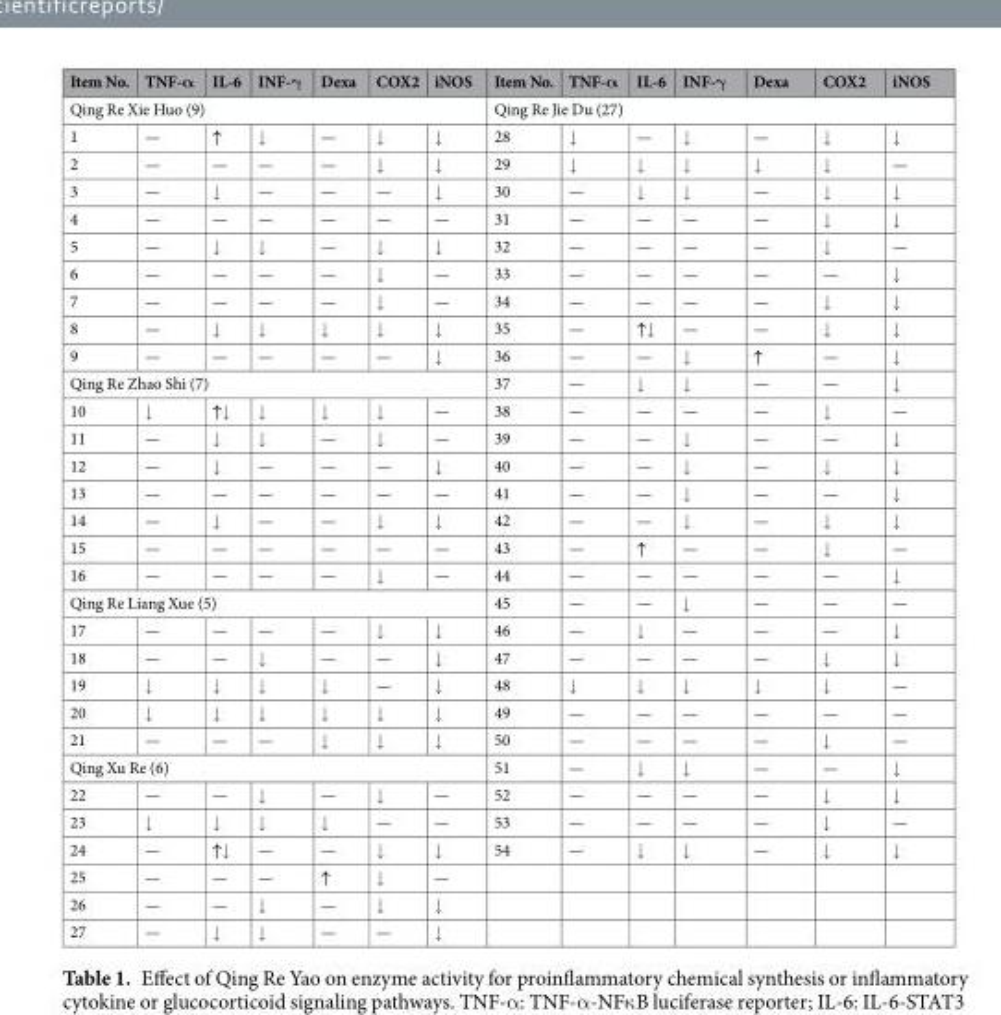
<table><thead><tr><td>Item No.</td><td>TNF-α</td><td>IL-6</td><td>INF-γ</td><td>Dexa</td><td>COX2</td><td>iNOS</td><td>Item No.</td><td>TNF-α</td><td>IL-6</td><td>INF-γ</td><td>Dexa</td><td>COX2</td><td>iNOS</td></tr></thead><tbody><tr><td colspan="7">Qing Re Xie Huo (9)</td><td colspan="7">Qing Re Jie Du (27)</td></tr><tr><td>1</td><td>—</td><td>↑</td><td>↓</td><td>—</td><td>↓</td><td>↓</td><td>28</td><td>↓</td><td>—</td><td>↓</td><td>—</td><td>↓</td><td>↓</td></tr><tr><td>2</td><td>—</td><td>—</td><td>—</td><td>—</td><td>↓</td><td>↓</td><td>29</td><td>↓</td><td>↓</td><td>↓</td><td>↓</td><td>↓</td><td>—</td></tr><tr><td>3</td><td>—</td><td>↓</td><td>—</td><td>—</td><td>—</td><td>↓</td><td>30</td><td>—</td><td>↓</td><td>↓</td><td>—</td><td>↓</td><td>↓</td></tr><tr><td>4</td><td>—</td><td>—</td><td>—</td><td>—</td><td>—</td><td>—</td><td>31</td><td>—</td><td>—</td><td>—</td><td>—</td><td>↓</td><td>↓</td></tr><tr><td>5</td><td>—</td><td>↓</td><td>↓</td><td>—</td><td>↓</td><td>↓</td><td>32</td><td>—</td><td>—</td><td>—</td><td>—</td><td>↓</td><td>—</td></tr><tr><td>6</td><td>—</td><td>—</td><td>—</td><td>—</td><td>↓</td><td>—</td><td>33</td><td>—</td><td>—</td><td>—</td><td>—</td><td>—</td><td>↓</td></tr><tr><td>7</td><td>—</td><td>—</td><td>—</td><td>—</td><td>↓</td><td>—</td><td>34</td><td>—</td><td>—</td><td>—</td><td>—</td><td>↓</td><td>↓</td></tr><tr><td>8</td><td>—</td><td>↓</td><td>↓</td><td>↓</td><td>↓</td><td>↓</td><td>35</td><td>—</td><td>↑↓</td><td>—</td><td>—</td><td>↓</td><td>↓</td></tr><tr><td>9</td><td>—</td><td>—</td><td>—</td><td>—</td><td>—</td><td>↓</td><td>36</td><td>—</td><td>—</td><td>↓</td><td>↑</td><td>—</td><td>↓</td></tr><tr><td colspan="7">Qing Re Zhao Shi (7)</td><td>37</td><td>—</td><td>↓</td><td>↓</td><td>—</td><td>—</td><td>↓</td></tr><tr><td>10</td><td>↓</td><td>↑↓</td><td>↓</td><td>↓</td><td>↓</td><td>—</td><td>38</td><td>—</td><td>—</td><td>—</td><td>—</td><td>↓</td><td>—</td></tr><tr><td>11</td><td>—</td><td>↓</td><td>↓</td><td>—</td><td>↓</td><td>—</td><td>39</td><td>—</td><td>—</td><td>↓</td><td>—</td><td>—</td><td>↓</td></tr><tr><td>12</td><td>—</td><td>↓</td><td>—</td><td>—</td><td>—</td><td>↓</td><td>40</td><td>—</td><td>—</td><td>↓</td><td>—</td><td>↓</td><td>↓</td></tr><tr><td>13</td><td>—</td><td>—</td><td>—</td><td>—</td><td>—</td><td>—</td><td>41</td><td>—</td><td>—</td><td>↓</td><td>—</td><td>—</td><td>↓</td></tr><tr><td>14</td><td>—</td><td>↓</td><td>—</td><td>—</td><td>↓</td><td>↓</td><td>42</td><td>—</td><td>—</td><td>↓</td><td>—</td><td>↓</td><td>↓</td></tr><tr><td>15</td><td>—</td><td>—</td><td>—</td><td>—</td><td>—</td><td>—</td><td>43</td><td>—</td><td>↑</td><td>—</td><td>—</td><td>↓</td><td>—</td></tr><tr><td>16</td><td>—</td><td>—</td><td>—</td><td>—</td><td>↓</td><td>—</td><td>44</td><td>—</td><td>—</td><td>—</td><td>—</td><td>—</td><td>↓</td></tr><tr><td colspan="7">Qing Re Liang Xue (5)</td><td>45</td><td>—</td><td>—</td><td>↓</td><td>—</td><td>—</td><td>—</td></tr><tr><td>17</td><td>—</td><td>—</td><td>—</td><td>—</td><td>↓</td><td>↓</td><td>46</td><td>—</td><td>↓</td><td>—</td><td>—</td><td>—</td><td>↓</td></tr><tr><td>18</td><td>—</td><td>—</td><td>↓</td><td>—</td><td>—</td><td>↓</td><td>47</td><td>—</td><td>—</td><td>—</td><td>—</td><td>↓</td><td>↓</td></tr><tr><td>19</td><td>↓</td><td>↓</td><td>↓</td><td>↓</td><td>—</td><td>↓</td><td>48</td><td>↓</td><td>↓</td><td>↓</td><td>↓</td><td>↓</td><td>—</td></tr><tr><td>20</td><td>↓</td><td>↓</td><td>↓</td><td>↓</td><td>↓</td><td>↓</td><td>49</td><td>—</td><td>—</td><td>—</td><td>—</td><td>—</td><td>—</td></tr><tr><td>21</td><td>—</td><td>—</td><td>—</td><td>↓</td><td>↓</td><td>↓</td><td>50</td><td>—</td><td>—</td><td>—</td><td>—</td><td>↓</td><td>—</td></tr><tr><td colspan="7">Qing Xu Re (6)</td><td>51</td><td>—</td><td>↓</td><td>↓</td><td>—</td><td>—</td><td>↓</td></tr><tr><td>22</td><td>—</td><td>—</td><td>↓</td><td>—</td><td>↓</td><td>—</td><td>52</td><td>—</td><td>—</td><td>—</td><td>—</td><td>↓</td><td>↓</td></tr><tr><td>23</td><td>↓</td><td>↓</td><td>↓</td><td>↓</td><td>—</td><td>—</td><td>53</td><td>—</td><td>—</td><td>—</td><td>—</td><td>↓</td><td>—</td></tr><tr><td>24</td><td>—</td><td>↑↓</td><td>—</td><td>—</td><td>↓</td><td>↓</td><td>54</td><td>—</td><td>↓</td><td>↓</td><td>—</td><td>↓</td><td>↓</td></tr><tr><td>25</td><td>—</td><td>—</td><td>—</td><td>↑</td><td>↓</td><td>—</td><td></td><td></td><td></td><td></td><td></td><td></td><td></td></tr><tr><td>26</td><td>—</td><td>—</td><td>↓</td><td>—</td><td>↓</td><td>↓</td><td></td><td></td><td></td><td></td><td></td><td></td><td></td></tr><tr><td>27</td><td>—</td><td>↓</td><td>↓</td><td>—</td><td>—</td><td>↓</td><td></td><td></td><td></td><td></td><td></td><td></td><td></td></tr></tbody></table>